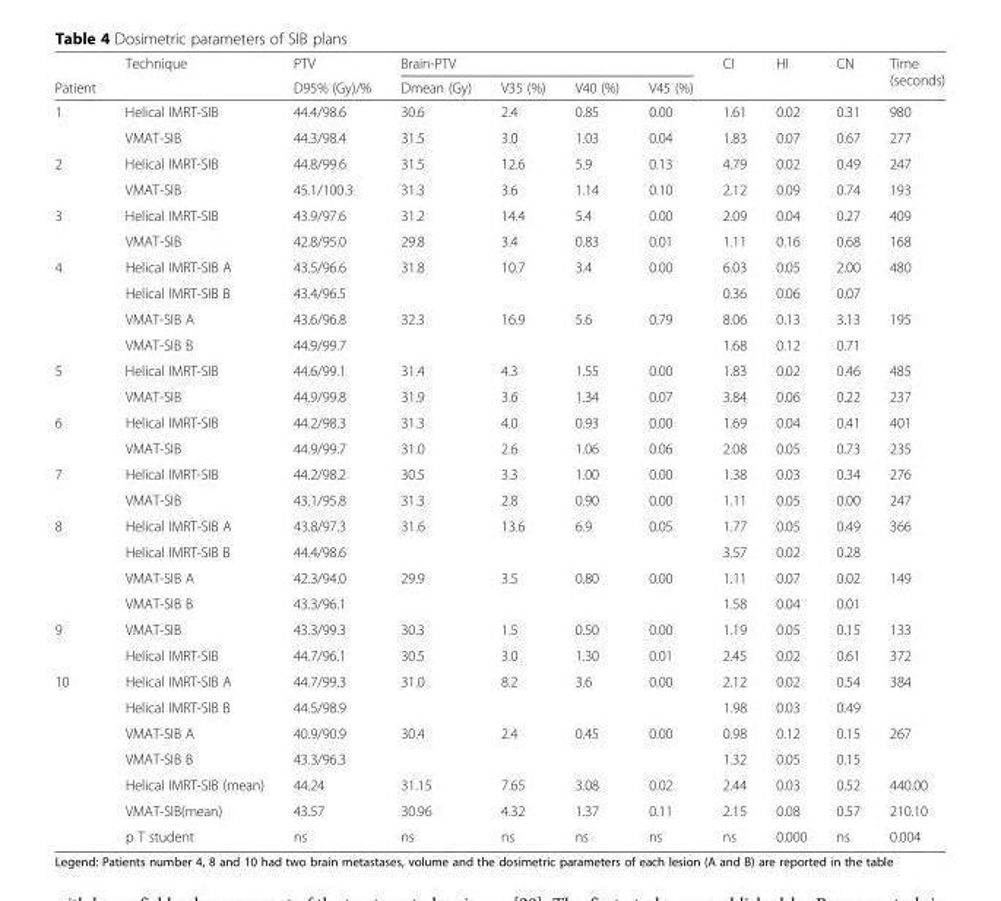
<table><thead><tr><td rowspan="2">Patient</td><td rowspan="2">Technique</td><td rowspan="2">PTV D95% (Gy)/%</td><td colspan="4">Brain-PTV</td><td rowspan="2">CI</td><td rowspan="2">HI</td><td rowspan="2">CN</td><td rowspan="2">Time (seconds)</td></tr><tr><td>Dmean (Gy)</td><td>V35 (%)</td><td>V40 (%)</td><td>V45 (%)</td></tr></thead><tbody><tr><td rowspan="2">1</td><td>Helical IMRT-SIB</td><td>44.4/98.6</td><td>30.6</td><td>2.4</td><td>0.85</td><td>0.00</td><td>1.61</td><td>0.02</td><td>0.31</td><td>980</td></tr><tr><td>VMAT-SIB</td><td>44.3/98.4</td><td>31.5</td><td>3.0</td><td>1.03</td><td>0.04</td><td>1.83</td><td>0.07</td><td>0.67</td><td>277</td></tr><tr><td rowspan="2">2</td><td>Helical IMRT-SIB</td><td>44.8/99.6</td><td>31.5</td><td>12.6</td><td>5.9</td><td>0.13</td><td>4.79</td><td>0.02</td><td>0.49</td><td>247</td></tr><tr><td>VMAT-SIB</td><td>45.1/100.3</td><td>31.3</td><td>3.6</td><td>1.14</td><td>0.10</td><td>2.12</td><td>0.09</td><td>0.74</td><td>193</td></tr><tr><td rowspan="2">3</td><td>Helical IMRT-SIB</td><td>43.9/97.6</td><td>31.2</td><td>14.4</td><td>5.4</td><td>0.00</td><td>2.09</td><td>0.04</td><td>0.27</td><td>409</td></tr><tr><td>VMAT-SIB</td><td>42.8/95.0</td><td>29.8</td><td>3.4</td><td>0.83</td><td>0.01</td><td>1.11</td><td>0.16</td><td>0.68</td><td>168</td></tr><tr><td rowspan="4">4</td><td>Helical IMRT-SIB A</td><td>43.5/96.6</td><td rowspan="2">31.8</td><td rowspan="2">10.7</td><td rowspan="2">3.4</td><td rowspan="2">0.00</td><td>6.03</td><td>0.05</td><td>2.00</td><td rowspan="2">480</td></tr><tr><td>Helical IMRT-SIB B</td><td>43.4/96.5</td><td>0.36</td><td>0.06</td><td>0.07</td></tr><tr><td>VMAT-SIB A</td><td>43.6/96.8</td><td rowspan="2">32.3</td><td rowspan="2">16.9</td><td rowspan="2">5.6</td><td rowspan="2">0.79</td><td>8.06</td><td>0.13</td><td>3.13</td><td rowspan="2">195</td></tr><tr><td>VMAT-SIB B</td><td>44.9/99.7</td><td>1.68</td><td>0.12</td><td>0.71</td></tr><tr><td rowspan="2">5</td><td>Helical IMRT-SIB</td><td>44.6/99.1</td><td>31.4</td><td>4.3</td><td>1.55</td><td>0.00</td><td>1.83</td><td>0.02</td><td>0.46</td><td>485</td></tr><tr><td>VMAT-SIB</td><td>44.9/99.8</td><td>31.9</td><td>3.6</td><td>1.34</td><td>0.07</td><td>3.84</td><td>0.06</td><td>0.22</td><td>237</td></tr><tr><td rowspan="2">6</td><td>Helical IMRT-SIB</td><td>44.2/98.3</td><td>31.3</td><td>4.0</td><td>0.93</td><td>0.00</td><td>1.69</td><td>0.04</td><td>0.41</td><td>401</td></tr><tr><td>VMAT-SIB</td><td>44.9/99.7</td><td>31.0</td><td>2.6</td><td>1.06</td><td>0.06</td><td>2.08</td><td>0.05</td><td>0.73</td><td>235</td></tr><tr><td rowspan="2">7</td><td>Helical IMRT-SIB</td><td>44.2/98.2</td><td>30.5</td><td>3.3</td><td>1.00</td><td>0.00</td><td>1.38</td><td>0.03</td><td>0.34</td><td>276</td></tr><tr><td>VMAT-SIB</td><td>43.1/95.8</td><td>31.3</td><td>2.8</td><td>0.90</td><td>0.00</td><td>1.11</td><td>0.05</td><td>0.00</td><td>247</td></tr><tr><td rowspan="4">8</td><td>Helical IMRT-SIB A</td><td>43.8/97.3</td><td rowspan="2">31.6</td><td rowspan="2">13.6</td><td rowspan="2">6.9</td><td rowspan="2">0.05</td><td>1.77</td><td>0.05</td><td>0.49</td><td rowspan="2">366</td></tr><tr><td>Helical IMRT-SIB B</td><td>44.4/98.6</td><td>3.57</td><td>0.02</td><td>0.28</td></tr><tr><td>VMAT-SIB A</td><td>42.3/94.0</td><td rowspan="2">29.9</td><td rowspan="2">3.5</td><td rowspan="2">0.80</td><td rowspan="2">0.00</td><td>1.11</td><td>0.07</td><td>0.02</td><td rowspan="2">149</td></tr><tr><td>VMAT-SIB B</td><td>43.3/96.1</td><td>1.58</td><td>0.04</td><td>0.01</td></tr><tr><td rowspan="2">9</td><td>VMAT-SIB</td><td>43.3/99.3</td><td>30.3</td><td>1.5</td><td>0.50</td><td>0.00</td><td>1.19</td><td>0.05</td><td>0.15</td><td>133</td></tr><tr><td>Helical IMRT-SIB</td><td>44.7/96.1</td><td>30.5</td><td>3.0</td><td>1.30</td><td>0.01</td><td>2.45</td><td>0.02</td><td>0.61</td><td>372</td></tr><tr><td rowspan="7">10</td><td>Helical IMRT-SIB A</td><td>44.7/99.3</td><td rowspan="2">31.0</td><td rowspan="2">8.2</td><td rowspan="2">3.6</td><td rowspan="2">0.00</td><td>2.12</td><td>0.02</td><td>0.54</td><td rowspan="2">384</td></tr><tr><td>Helical IMRT-SIB B</td><td>44.5/98.9</td><td>1.98</td><td>0.03</td><td>0.49</td></tr><tr><td>VMAT-SIB A</td><td>40.9/90.9</td><td rowspan="2">30.4</td><td rowspan="2">2.4</td><td rowspan="2">0.45</td><td rowspan="2">0.00</td><td>0.98</td><td>0.12</td><td>0.15</td><td rowspan="2">267</td></tr><tr><td>VMAT-SIB B</td><td>43.3/96.3</td><td>1.32</td><td>0.05</td><td>0.15</td></tr><tr><td>Helical IMRT-SIB (mean)</td><td>44.24</td><td>31.15</td><td>7.65</td><td>3.08</td><td>0.02</td><td>2.44</td><td>0.03</td><td>0.52</td><td>440.00</td></tr><tr><td>VMAT-SIB(mean)</td><td>43.57</td><td>30.96</td><td>4.32</td><td>1.37</td><td>0.11</td><td>2.15</td><td>0.08</td><td>0.57</td><td>210.10</td></tr><tr><td>p T student</td><td>ns</td><td>ns</td><td>ns</td><td>ns</td><td>ns</td><td>ns</td><td>0.000</td><td>ns</td><td>0.004</td></tr></tbody></table>